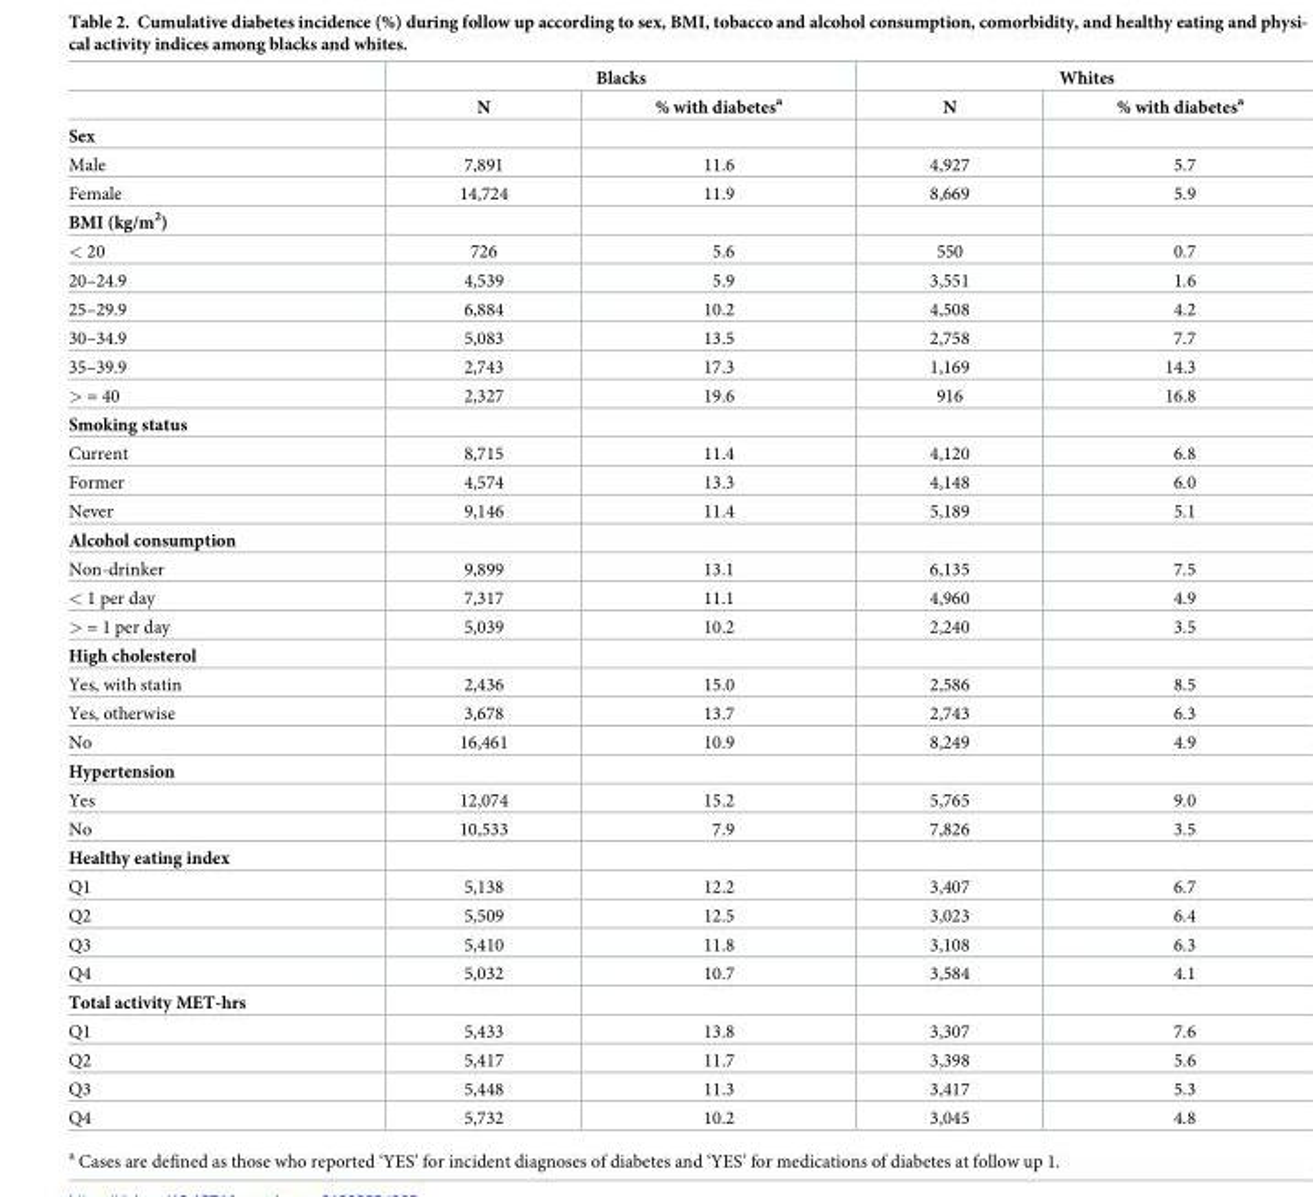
<table><thead><tr><td rowspan="2"></td><td colspan="2">Blacks</td><td colspan="2">Whites</td></tr><tr><td>N</td><td>% with diabetes<sup>a</sup></td><td>N</td><td>% with diabetes<sup>a</sup></td></tr></thead><tbody><tr><td colspan="5">Sex</td></tr><tr><td>Male</td><td>7,891</td><td>11.6</td><td>4,927</td><td>5.7</td></tr><tr><td>Female</td><td>14,724</td><td>11.9</td><td>8,669</td><td>5.9</td></tr><tr><td colspan="5">BMI (kg/m<sup>2</sup>)</td></tr><tr><td>&lt; 20</td><td>726</td><td>5.6</td><td>550</td><td>0.7</td></tr><tr><td>20–24.9</td><td>4,539</td><td>5.9</td><td>3,551</td><td>1.6</td></tr><tr><td>25–29.9</td><td>6,884</td><td>10.2</td><td>4,508</td><td>4.2</td></tr><tr><td>30–34.9</td><td>5,083</td><td>13.5</td><td>2,758</td><td>7.7</td></tr><tr><td>35–39.9</td><td>2,743</td><td>17.3</td><td>1,169</td><td>14.3</td></tr><tr><td>&gt; = 40</td><td>2,327</td><td>19.6</td><td>916</td><td>16.8</td></tr><tr><td colspan="5">Smoking status</td></tr><tr><td>Current</td><td>8,715</td><td>11.4</td><td>4,120</td><td>6.8</td></tr><tr><td>Former</td><td>4,574</td><td>13.3</td><td>4,148</td><td>6.0</td></tr><tr><td>Never</td><td>9,146</td><td>11.4</td><td>5,189</td><td>5.1</td></tr><tr><td colspan="5">Alcohol consumption</td></tr><tr><td>Non-drinker</td><td>9,899</td><td>13.1</td><td>6,135</td><td>7.5</td></tr><tr><td>&lt; 1 per day</td><td>7,317</td><td>11.1</td><td>4,960</td><td>4.9</td></tr><tr><td>&gt; = 1 per day</td><td>5,039</td><td>10.2</td><td>2,240</td><td>3.5</td></tr><tr><td colspan="5">High cholesterol</td></tr><tr><td>Yes, with statin</td><td>2,436</td><td>15.0</td><td>2,586</td><td>8.5</td></tr><tr><td>Yes, otherwise</td><td>3,678</td><td>13.7</td><td>2,743</td><td>6.3</td></tr><tr><td>No</td><td>16,461</td><td>10.9</td><td>8,249</td><td>4.9</td></tr><tr><td colspan="5">Hypertension</td></tr><tr><td>Yes</td><td>12,074</td><td>15.2</td><td>5,765</td><td>9.0</td></tr><tr><td>No</td><td>10,533</td><td>7.9</td><td>7,826</td><td>3.5</td></tr><tr><td colspan="5">Healthy eating index</td></tr><tr><td>Q1</td><td>5,138</td><td>12.2</td><td>3,407</td><td>6.7</td></tr><tr><td>Q2</td><td>5,509</td><td>12.5</td><td>3,023</td><td>6.4</td></tr><tr><td>Q3</td><td>5,410</td><td>11.8</td><td>3,108</td><td>6.3</td></tr><tr><td>Q4</td><td>5,032</td><td>10.7</td><td>3,584</td><td>4.1</td></tr><tr><td colspan="5">Total activity MET-hrs</td></tr><tr><td>Q1</td><td>5,433</td><td>13.8</td><td>3,307</td><td>7.6</td></tr><tr><td>Q2</td><td>5,417</td><td>11.7</td><td>3,398</td><td>5.6</td></tr><tr><td>Q3</td><td>5,448</td><td>11.3</td><td>3,417</td><td>5.3</td></tr><tr><td>Q4</td><td>5,732</td><td>10.2</td><td>3,045</td><td>4.8</td></tr></tbody></table>